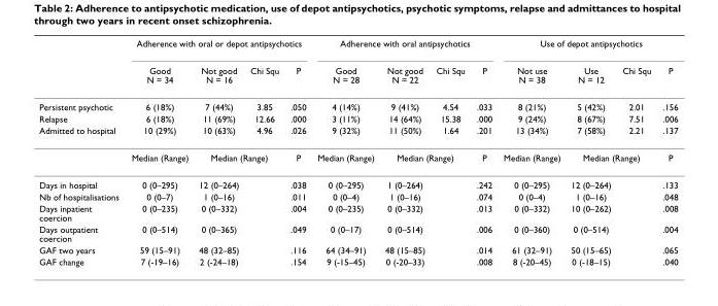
<table><thead><tr><td rowspan="2"></td><td colspan="4">Adherence with oral or depot antipsychotics</td><td colspan="4">Adherence with oral antipsychotics</td><td colspan="4">Use of depot antipsychotics</td></tr><tr><td>Good N = 34</td><td>Not good N = 16</td><td>Chi Squ</td><td>P</td><td>Good N = 28</td><td>Not good N = 22</td><td>Chi Squ</td><td>P</td><td>Not use N = 38</td><td>Use N = 12</td><td>Chi Squ</td><td>P</td></tr></thead><tbody><tr><td>Persistent psychotic</td><td>6 (18%)</td><td>7 (44%)</td><td>3.85</td><td>.050</td><td>4 (14%)</td><td>9 (41%)</td><td>4.54</td><td>.033</td><td>8 (21%)</td><td>5 (42%)</td><td>2.01</td><td>.156</td></tr><tr><td>Relapse</td><td>6 (18%)</td><td>11 (69%)</td><td>12.66</td><td>.000</td><td>3 (11%)</td><td>14 (64%)</td><td>15.38</td><td>.000</td><td>9 (24%)</td><td>8 (67%)</td><td>7.51</td><td>.006</td></tr><tr><td rowspan="2">Admitted to hospital</td><td>10 (29%)</td><td>10 (63%)</td><td>4.96</td><td>.026</td><td>9 (32%)</td><td>11 (50%)</td><td>1.64</td><td>.201</td><td>13 (34%)</td><td>7 (58%)</td><td>2.21</td><td>.137</td></tr><tr><td>Median (Range)</td><td colspan="2">Median (Range)</td><td>P</td><td>Median (Range)</td><td colspan="2">Median (Range)</td><td>P</td><td>Median (Range)</td><td colspan="2">Median (Range)</td><td>P</td></tr><tr><td>Days in hospital</td><td>0 (0–295)</td><td>12 (0–264)</td><td></td><td>.038</td><td>0 (0–295)</td><td>1 (0–264)</td><td></td><td>.242</td><td>0 (0–295)</td><td>12 (0–264)</td><td></td><td>.133</td></tr><tr><td>Nb of hospitalisations</td><td>0 (0–7)</td><td>1 (0–16)</td><td></td><td>.011</td><td>0 (0–4)</td><td>1 (0–16)</td><td></td><td>.074</td><td>0 (0–4)</td><td>1 (0–16)</td><td></td><td>.048</td></tr><tr><td>Days inpatient coercion</td><td>0 (0–235)</td><td>0 (0–332)</td><td></td><td>.004</td><td>0 (0–235)</td><td>0 (0–332)</td><td></td><td>.013</td><td>0 (0–332)</td><td>10 (0–262)</td><td></td><td>.008</td></tr><tr><td>Days outpatient coercion</td><td>0 (0–514)</td><td>0 (0–365)</td><td></td><td>.049</td><td>0 (0–17)</td><td>0 (0–514)</td><td></td><td>.006</td><td>0 (0–360)</td><td>0 (0–514)</td><td></td><td>.004</td></tr><tr><td>GAF two years</td><td>59 (15–91)</td><td>48 (32–85)</td><td></td><td>.116</td><td>64 (34–91)</td><td>48 (15–85)</td><td></td><td>.014</td><td>61 (32–91)</td><td>50 (15–65)</td><td></td><td>.065</td></tr><tr><td>GAF change</td><td>7 (-19–16)</td><td>2 (-24–18)</td><td></td><td>.154</td><td>9 (-15–45)</td><td>0 (-20–33)</td><td></td><td>.008</td><td>8 (-20–45)</td><td>0 (-18–15)</td><td></td><td>.040</td></tr></tbody></table>